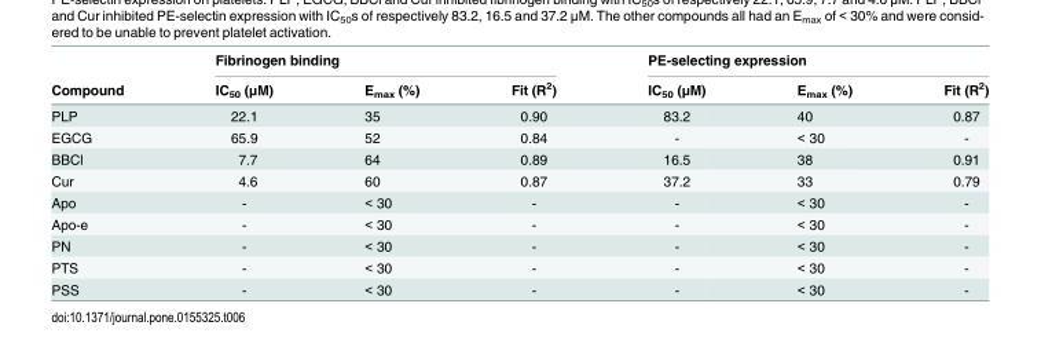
<table><thead><tr><td rowspan="2">Compound</td><td colspan="3">Fibrinogen binding</td><td colspan="3">PE-selecting expression</td></tr><tr><td>IC<sub>50</sub> (μM)</td><td>E<sub>max</sub> (%)</td><td>Fit (R<sup>2</sup>)</td><td>IC<sub>50</sub> (μM)</td><td>E<sub>max</sub> (%)</td><td>Fit (R<sup>2</sup>)</td></tr></thead><tbody><tr><td>PLP</td><td>22.1</td><td>35</td><td>0.90</td><td>83.2</td><td>40</td><td>0.87</td></tr><tr><td>EGCG</td><td>65.9</td><td>52</td><td>0.84</td><td>-</td><td>&lt; 30</td><td>-</td></tr><tr><td>BBCl</td><td>7.7</td><td>64</td><td>0.89</td><td>16.5</td><td>38</td><td>0.91</td></tr><tr><td>Cur</td><td>4.6</td><td>60</td><td>0.87</td><td>37.2</td><td>33</td><td>0.79</td></tr><tr><td>Apo</td><td>-</td><td>&lt; 30</td><td>-</td><td>-</td><td>&lt; 30</td><td>-</td></tr><tr><td>Apo-e</td><td>-</td><td>&lt; 30</td><td>-</td><td>-</td><td>&lt; 30</td><td>-</td></tr><tr><td>PN</td><td>-</td><td>&lt; 30</td><td>-</td><td>-</td><td>&lt; 30</td><td>-</td></tr><tr><td>PTS</td><td>-</td><td>&lt; 30</td><td>-</td><td>-</td><td>&lt; 30</td><td>-</td></tr><tr><td>PSS</td><td>-</td><td>&lt; 30</td><td>-</td><td>-</td><td>&lt; 30</td><td>-</td></tr></tbody></table>